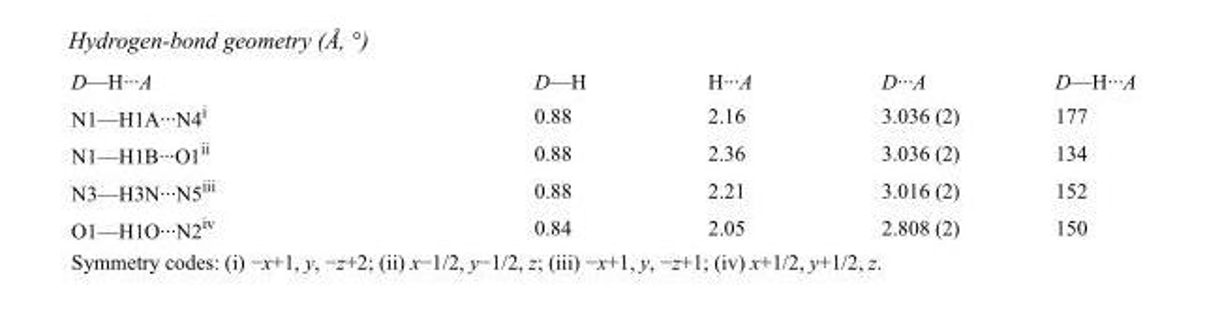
<table><tbody><tr><td>D—H···A</td><td>D—H</td><td>H···A</td><td>D···A</td><td>D—H···A</td></tr><tr><td>N1—H1A···N4<sup>i</sup></td><td>0.88</td><td>2.16</td><td>3.036 (2)</td><td>177</td></tr><tr><td>N1—H1B···O1<sup>ii</sup></td><td>0.88</td><td>2.36</td><td>3.036 (2)</td><td>134</td></tr><tr><td>N3—H3N···N5<sup>iii</sup></td><td>0.88</td><td>2.21</td><td>3.016 (2)</td><td>152</td></tr><tr><td>O1—H1O···N2<sup>iv</sup></td><td>0.84</td><td>2.05</td><td>2.808 (2)</td><td>150</td></tr></tbody></table>